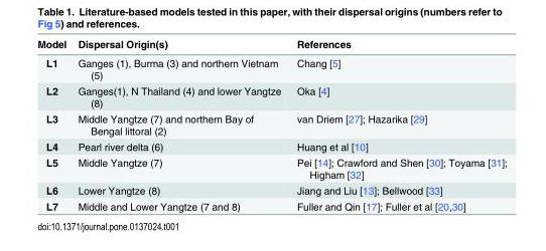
<table><thead><tr><td>Model</td><td>Dispersal Origin(s)</td><td>References</td></tr></thead><tbody><tr><td>L1</td><td>Ganges (1), Burma (3) and northern Vietnam (5)</td><td>Chang [5]</td></tr><tr><td>L2</td><td>Ganges(1), N Thailand (4) and lower Yangtze (8)</td><td>Oka [4]</td></tr><tr><td>L3</td><td>Middle Yangtze (7) and northern Bay of Bengal littoral (2)</td><td>van Driem [27]; Hazarika [29]</td></tr><tr><td>L4</td><td>Pearl river delta (6)</td><td>Huang et al [10]</td></tr><tr><td>L5</td><td>Middle Yangtze (7)</td><td>Pei [14]; Crawford and Shen [30]; Toyama [31]; Higham [32]</td></tr><tr><td>L6</td><td>Lower Yangtze (8)</td><td>Jiang and Liu [13]; Bellwood [33]</td></tr><tr><td>L7</td><td>Middle and Lower Yangtze (7 and 8)</td><td>Fuller and Qin [17]; Fuller et al [20,30]</td></tr></tbody></table>